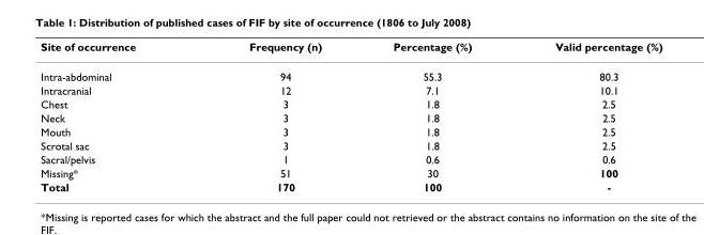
<table><thead><tr><td>Site of occurrence</td><td>Frequency (n)</td><td>Percentage (%)</td><td>Valid percentage (%)</td></tr></thead><tbody><tr><td>Intra-abdominal</td><td>94</td><td>55.3</td><td>80.3</td></tr><tr><td>Intracranial</td><td>12</td><td>7.1</td><td>10.1</td></tr><tr><td>Chest</td><td>3</td><td>1.8</td><td>2.5</td></tr><tr><td>Neck</td><td>3</td><td>1.8</td><td>2.5</td></tr><tr><td>Mouth</td><td>3</td><td>1.8</td><td>2.5</td></tr><tr><td>Scrotal sac</td><td>3</td><td>1.8</td><td>2.5</td></tr><tr><td>Sacral/pelvis</td><td>1</td><td>0.6</td><td>0.6</td></tr><tr><td>Missing*</td><td>51</td><td>30</td><td>100</td></tr><tr><td>Total</td><td>170</td><td>100</td><td>-</td></tr></tbody></table>